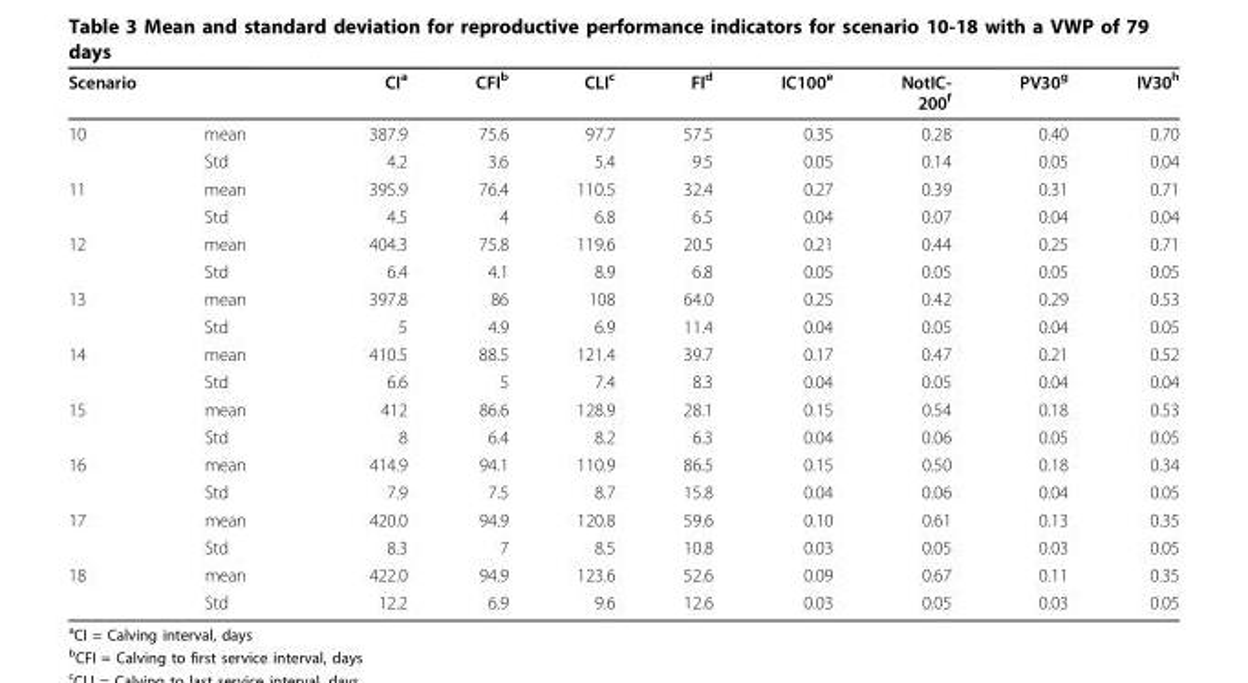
<table><thead><tr><td>Scenario</td><td></td><td>CI<sup>a</sup></td><td>CFI<sup>b</sup></td><td>CLI<sup>c</sup></td><td>FI<sup>d</sup></td><td>IC100<sup>e</sup></td><td>NotIC- 200<sup>f</sup></td><td>PV30<sup>g</sup></td><td>IV30<sup>h</sup></td></tr></thead><tbody><tr><td rowspan="2">10</td><td>mean</td><td>387.9</td><td>75.6</td><td>97.7</td><td>57.5</td><td>0.35</td><td>0.28</td><td>0.40</td><td>0.70</td></tr><tr><td>Std</td><td>4.2</td><td>3.6</td><td>5.4</td><td>9.5</td><td>0.05</td><td>0.14</td><td>0.05</td><td>0.04</td></tr><tr><td rowspan="2">11</td><td>mean</td><td>395.9</td><td>76.4</td><td>110.5</td><td>32.4</td><td>0.27</td><td>0.39</td><td>0.31</td><td>0.71</td></tr><tr><td>Std</td><td>4.5</td><td>4</td><td>6.8</td><td>6.5</td><td>0.04</td><td>0.07</td><td>0.04</td><td>0.04</td></tr><tr><td rowspan="2">12</td><td>mean</td><td>404.3</td><td>75.8</td><td>119.6</td><td>20.5</td><td>0.21</td><td>0.44</td><td>0.25</td><td>0.71</td></tr><tr><td>Std</td><td>6.4</td><td>4.1</td><td>8.9</td><td>6.8</td><td>0.05</td><td>0.05</td><td>0.05</td><td>0.05</td></tr><tr><td rowspan="2">13</td><td>mean</td><td>397.8</td><td>86</td><td>108</td><td>64.0</td><td>0.25</td><td>0.42</td><td>0.29</td><td>0.53</td></tr><tr><td>Std</td><td>5</td><td>4.9</td><td>6.9</td><td>11.4</td><td>0.04</td><td>0.05</td><td>0.04</td><td>0.05</td></tr><tr><td rowspan="2">14</td><td>mean</td><td>410.5</td><td>88.5</td><td>121.4</td><td>39.7</td><td>0.17</td><td>0.47</td><td>0.21</td><td>0.52</td></tr><tr><td>Std</td><td>6.6</td><td>5</td><td>7.4</td><td>8.3</td><td>0.04</td><td>0.05</td><td>0.04</td><td>0.04</td></tr><tr><td rowspan="2">15</td><td>mean</td><td>412</td><td>86.6</td><td>128.9</td><td>28.1</td><td>0.15</td><td>0.54</td><td>0.18</td><td>0.53</td></tr><tr><td>Std</td><td>8</td><td>6.4</td><td>8.2</td><td>6.3</td><td>0.04</td><td>0.06</td><td>0.05</td><td>0.05</td></tr><tr><td rowspan="2">16</td><td>mean</td><td>414.9</td><td>94.1</td><td>110.9</td><td>86.5</td><td>0.15</td><td>0.50</td><td>0.18</td><td>0.34</td></tr><tr><td>Std</td><td>7.9</td><td>7.5</td><td>8.7</td><td>15.8</td><td>0.04</td><td>0.06</td><td>0.04</td><td>0.05</td></tr><tr><td rowspan="2">17</td><td>mean</td><td>420.0</td><td>94.9</td><td>120.8</td><td>59.6</td><td>0.10</td><td>0.61</td><td>0.13</td><td>0.35</td></tr><tr><td>Std</td><td>8.3</td><td>7</td><td>8.5</td><td>10.8</td><td>0.03</td><td>0.05</td><td>0.03</td><td>0.05</td></tr><tr><td rowspan="2">18</td><td>mean</td><td>422.0</td><td>94.9</td><td>123.6</td><td>52.6</td><td>0.09</td><td>0.67</td><td>0.11</td><td>0.35</td></tr><tr><td>Std</td><td>12.2</td><td>6.9</td><td>9.6</td><td>12.6</td><td>0.03</td><td>0.05</td><td>0.03</td><td>0.05</td></tr></tbody></table>